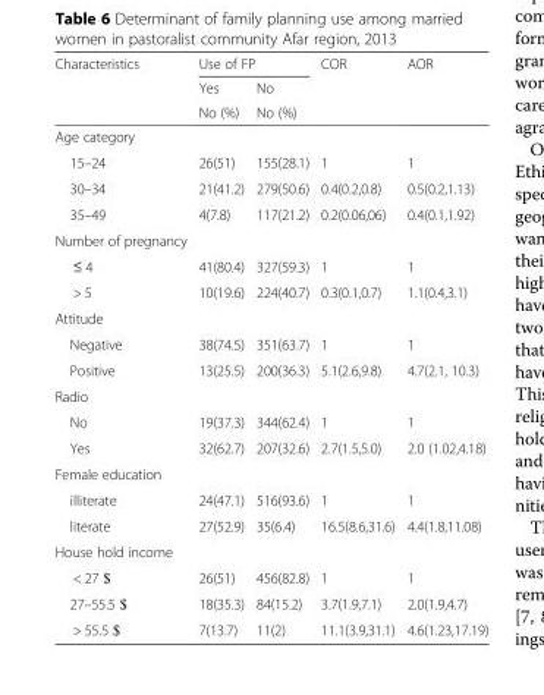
<table><thead><tr><td rowspan="3">Characteristics</td><td colspan="2">Use of FP</td><td rowspan="3">COR</td><td rowspan="3">AOR</td></tr><tr><td rowspan="2">Yes No (%)</td><td rowspan="2">No No (%)</td></tr><tr></tr></thead><tbody><tr><td colspan="5">Age category</td></tr><tr><td>15–24</td><td>26(51)</td><td>155(28.1)</td><td>1</td><td>1</td></tr><tr><td>30–34</td><td>21(41.2)</td><td>279(50.6)</td><td>0.4(0.2,0.8)</td><td>0.5(0.2,1.13)</td></tr><tr><td>35–49</td><td>4(7.8)</td><td>117(21.2)</td><td>0.2(0.06,06)</td><td>0.4(0.1,1.92)</td></tr><tr><td colspan="5">Number of pregnancy</td></tr><tr><td>≤ 4</td><td>41(80.4)</td><td>327(59.3)</td><td>1</td><td>1</td></tr><tr><td>&gt; 5</td><td>10(19.6)</td><td>224(40.7)</td><td>0.3(0.1,0.7)</td><td>1.1(0.4,3.1)</td></tr><tr><td colspan="5">Attitude</td></tr><tr><td>Negative</td><td>38(74.5)</td><td>351(63.7)</td><td>1</td><td>1</td></tr><tr><td>Positive</td><td>13(25.5)</td><td>200(36.3)</td><td>5.1(2.6,9.8)</td><td>4.7(2.1, 10.3)</td></tr><tr><td colspan="5">Radio</td></tr><tr><td>No</td><td>19(37.3)</td><td>344(62.4)</td><td>1</td><td>1</td></tr><tr><td>Yes</td><td>32(62.7)</td><td>207(32.6)</td><td>2.7(1.5,5.0)</td><td>2.0 (1.02,4.18)</td></tr><tr><td colspan="5">Female education</td></tr><tr><td>illiterate</td><td>24(47.1)</td><td>516(93.6)</td><td>1</td><td>1</td></tr><tr><td>literate</td><td>27(52.9)</td><td>35(6.4)</td><td>16.5(8.6,31.6)</td><td>4.4(1.8,11.08)</td></tr><tr><td colspan="5">House hold income</td></tr><tr><td>&lt; 27 $</td><td>26(51)</td><td>456(82.8)</td><td>1</td><td>1</td></tr><tr><td>27–55.5 $</td><td>18(35.3)</td><td>84(15.2)</td><td>3.7(1.9,7.1)</td><td>2.0(1.9,4.7)</td></tr><tr><td>&gt; 55.5 $</td><td>7(13.7)</td><td>11(2)</td><td>11.1(3.9,31.1)</td><td>4.6(1.23,17.19)</td></tr></tbody></table>